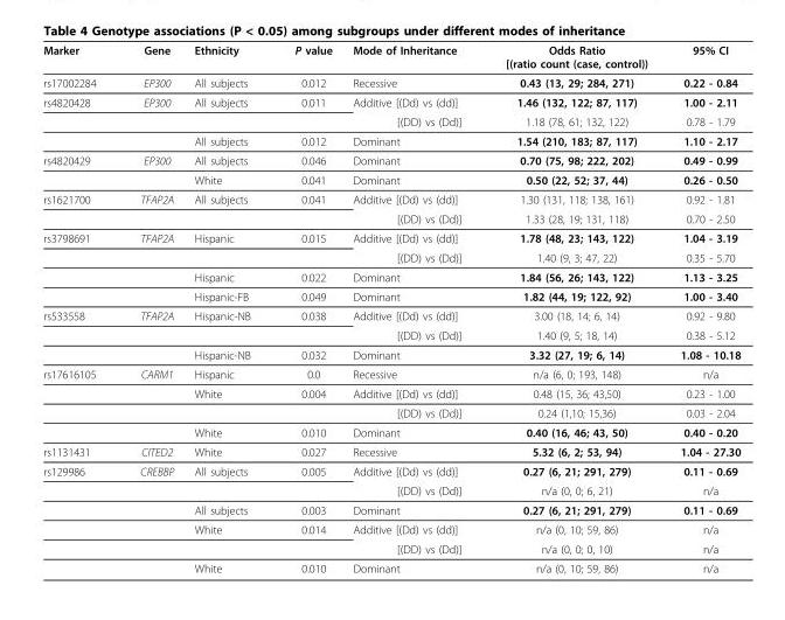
<table><thead><tr><td>Marker</td><td>Gene</td><td>Ethnicity</td><td>P value</td><td>Mode of Inheritance</td><td>Odds Ratio [(ratio count (case, control))</td><td>95% CI</td></tr></thead><tbody><tr><td>rs17002284</td><td>EP300</td><td>All subjects</td><td>0.012</td><td>Recessive</td><td>0.43 (13, 29; 284, 271)</td><td>0.22 - 0.84</td></tr><tr><td rowspan="3">rs4820428</td><td>EP300</td><td>All subjects</td><td>0.011</td><td>Additive [(Dd) vs (dd)]</td><td>1.46 (132, 122; 87, 117)</td><td>1.00 - 2.11</td></tr><tr><td></td><td></td><td></td><td>[(DD) vs (Dd)]</td><td>1.18 (78, 61; 132, 122)</td><td>0.78 - 1.79</td></tr><tr><td></td><td>All subjects</td><td>0.012</td><td>Dominant</td><td>1.54 (210, 183; 87, 117)</td><td>1.10 - 2.17</td></tr><tr><td rowspan="2">rs4820429</td><td>EP300</td><td>All subjects</td><td>0.046</td><td>Dominant</td><td>0.70 (75, 98; 222, 202)</td><td>0.49 - 0.99</td></tr><tr><td></td><td>White</td><td>0.041</td><td>Dominant</td><td>0.50 (22, 52; 37, 44)</td><td>0.26 - 0.50</td></tr><tr><td rowspan="2">rs1621700</td><td>TFAP2A</td><td>All subjects</td><td>0.041</td><td>Additive [(Dd) vs (dd)]</td><td>1.30 (131, 118; 138, 161)</td><td>0.92 - 1.81</td></tr><tr><td></td><td></td><td></td><td>[(DD) vs (Dd)]</td><td>1.33 (28, 19; 131, 118)</td><td>0.70 - 2.50</td></tr><tr><td rowspan="4">rs3798691</td><td>TFAP2A</td><td>Hispanic</td><td>0.015</td><td>Additive [(Dd) vs (dd)]</td><td>1.78 (48, 23; 143, 122)</td><td>1.04 - 3.19</td></tr><tr><td></td><td></td><td></td><td>[(DD) vs (Dd)]</td><td>1.40 (9, 3; 47, 22)</td><td>0.35 - 5.70</td></tr><tr><td></td><td>Hispanic</td><td>0.022</td><td>Dominant</td><td>1.84 (56, 26; 143, 122)</td><td>1.13 - 3.25</td></tr><tr><td></td><td>Hispanic-FB</td><td>0.049</td><td>Dominant</td><td>1.82 (44, 19; 122, 92)</td><td>1.00 - 3.40</td></tr><tr><td rowspan="3">rs533558</td><td>TFAP2A</td><td>Hispanic-NB</td><td>0.038</td><td>Additive [(Dd) vs (dd)]</td><td>3.00 (18, 14; 6, 14)</td><td>0.92 - 9.80</td></tr><tr><td></td><td></td><td></td><td>[(DD) vs (Dd)]</td><td>1.40 (9, 5; 18, 14)</td><td>0.38 - 5.12</td></tr><tr><td></td><td>Hispanic-NB</td><td>0.032</td><td>Dominant</td><td>3.32 (27, 19; 6, 14)</td><td>1.08 - 10.18</td></tr><tr><td rowspan="4">rs17616105</td><td>CARM1</td><td>Hispanic</td><td>0.0</td><td>Recessive</td><td>n/a (6, 0; 193, 148)</td><td>n/a</td></tr><tr><td></td><td>White</td><td>0.004</td><td>Additive [(Dd) vs (dd)]</td><td>0.48 (15, 36; 43,50)</td><td>0.23 - 1.00</td></tr><tr><td></td><td></td><td></td><td>[(DD) vs (Dd)]</td><td>0.24 (1,10; 15,36)</td><td>0.03 - 2.04</td></tr><tr><td></td><td>White</td><td>0.010</td><td>Dominant</td><td>0.40 (16, 46; 43, 50)</td><td>0.40 - 0.20</td></tr><tr><td>rs1131431</td><td>CITED2</td><td>White</td><td>0.027</td><td>Recessive</td><td>5.32 (6, 2; 53, 94)</td><td>1.04 - 27.30</td></tr><tr><td rowspan="6">rs129986</td><td>CREBBP</td><td>All subjects</td><td>0.005</td><td>Additive [(Dd) vs (dd)]</td><td>0.27 (6, 21; 291, 279)</td><td>0.11 - 0.69</td></tr><tr><td></td><td></td><td></td><td>[(DD) vs (Dd)]</td><td>n/a (0, 0; 6, 21)</td><td>n/a</td></tr><tr><td></td><td>All subjects</td><td>0.003</td><td>Dominant</td><td>0.27 (6, 21; 291, 279)</td><td>0.11 - 0.69</td></tr><tr><td></td><td>White</td><td>0.014</td><td>Additive [(Dd) vs (dd)]</td><td>n/a (0, 10; 59, 86)</td><td>n/a</td></tr><tr><td></td><td></td><td></td><td>[(DD) vs (Dd)]</td><td>n/a (0, 0; 0, 10)</td><td>n/a</td></tr><tr><td></td><td>White</td><td>0.010</td><td>Dominant</td><td>n/a (0, 10; 59, 86)</td><td>n/a</td></tr></tbody></table>